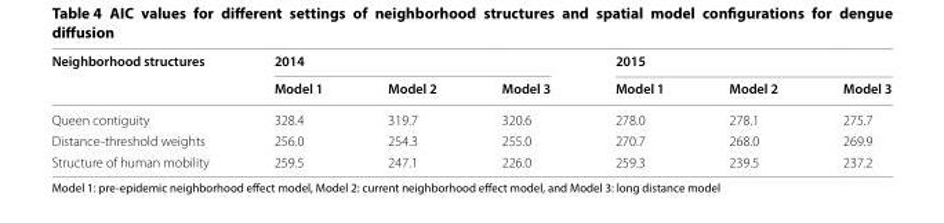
<table><thead><tr><td rowspan="2">Neighborhood structures</td><td colspan="3">2014</td><td colspan="3">2015</td></tr><tr><td>Model 1</td><td>Model 2</td><td>Model 3</td><td>Model 1</td><td>Model 2</td><td>Model 3</td></tr></thead><tbody><tr><td>Queen contiguity</td><td>328.4</td><td>319.7</td><td>320.6</td><td>278.0</td><td>278.1</td><td>275.7</td></tr><tr><td>Distance‑threshold weights</td><td>256.0</td><td>254.3</td><td>255.0</td><td>270.7</td><td>268.0</td><td>269.9</td></tr><tr><td>Structure of human mobility</td><td>259.5</td><td>247.1</td><td>226.0</td><td>259.3</td><td>239.5</td><td>237.2</td></tr></tbody></table>